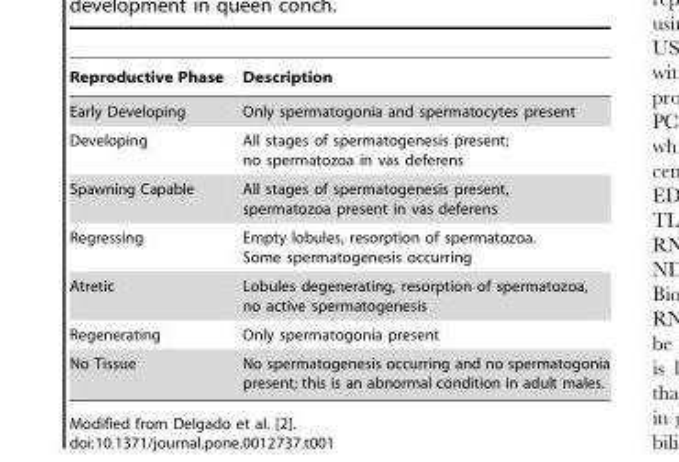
<table><thead><tr><td>Reproductive Phase</td><td>Description</td></tr></thead><tbody><tr><td>Early Developing</td><td>Only spermatogonia and spermatocytes present</td></tr><tr><td>Developing</td><td>All stages of spermatogenesis present; no spermatozoa in vas deferens</td></tr><tr><td>Spawning Capable</td><td>All stages of spermatogenesis present, spermatozoa present in vas deferens</td></tr><tr><td>Regressing</td><td>Empty lobules, resorption of spermatozoa. Some spermatogenesis occurring</td></tr><tr><td>Atretic</td><td>Lobules degenerating, resorption of spermatozoa, no active spermatogenesis</td></tr><tr><td>Regenerating</td><td>Only spermatogonia present</td></tr><tr><td>No Tissue</td><td>No spermatogenesis occurring and no spermatogonia present; this is an abnormal condition in adult males.</td></tr></tbody></table>